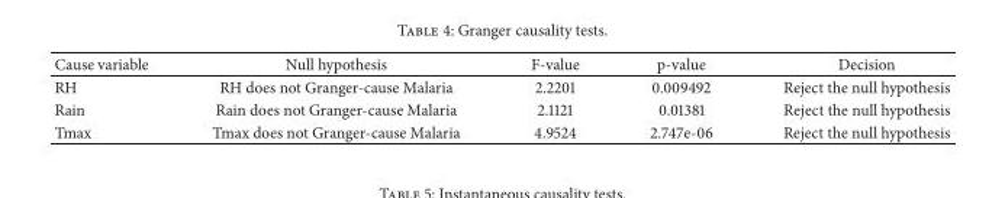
<table><thead><tr><td>Cause variable</td><td>Null hypothesis</td><td>F-value</td><td>p-value</td><td>Decision</td></tr></thead><tbody><tr><td>RH</td><td>RH does not Granger-cause Malaria</td><td>2.2201</td><td>0.009492</td><td>Reject the null hypothesis</td></tr><tr><td>Rain</td><td>Rain does not Granger-cause Malaria</td><td>2.1121</td><td>0.01381</td><td>Reject the null hypothesis</td></tr><tr><td>Tmax</td><td>Tmax does not Granger-cause Malaria</td><td>4.9524</td><td>2.747e-06</td><td>Reject the null hypothesis</td></tr></tbody></table>